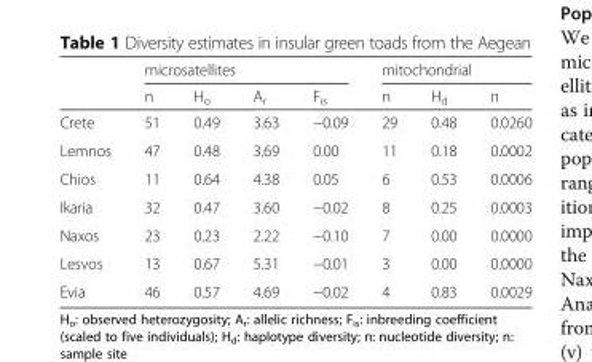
<table><thead><tr><td rowspan="2"></td><td colspan="4">microsatellites</td><td colspan="3">mitochondrial</td></tr><tr><td>n</td><td>H<sub>o</sub></td><td>A<sub>r</sub></td><td>F<sub>is</sub></td><td>n</td><td>H<sub>d</sub></td><td>п</td></tr></thead><tbody><tr><td>Crete</td><td>51</td><td>0.49</td><td>3.63</td><td>−0.09</td><td>29</td><td>0.48</td><td>0.0260</td></tr><tr><td>Lemnos</td><td>47</td><td>0.48</td><td>3.69</td><td>0.00</td><td>11</td><td>0.18</td><td>0.0002</td></tr><tr><td>Chios</td><td>11</td><td>0.64</td><td>4.38</td><td>0.05</td><td>6</td><td>0.53</td><td>0.0006</td></tr><tr><td>Ikaria</td><td>32</td><td>0.47</td><td>3.60</td><td>−0.02</td><td>8</td><td>0.25</td><td>0.0003</td></tr><tr><td>Naxos</td><td>23</td><td>0.23</td><td>2.22</td><td>−0.10</td><td>7</td><td>0.00</td><td>0.0000</td></tr><tr><td>Lesvos</td><td>13</td><td>0.67</td><td>5.31</td><td>−0.01</td><td>3</td><td>0.00</td><td>0.0000</td></tr><tr><td>Evia</td><td>46</td><td>0.57</td><td>4.69</td><td>−0.02</td><td>4</td><td>0.83</td><td>0.0029</td></tr></tbody></table>